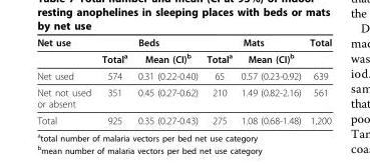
<table><thead><tr><td rowspan="2">Net use</td><td colspan="2">Beds</td><td colspan="2">Mats</td><td rowspan="2">Total</td></tr><tr><td>Total<sup>a</sup></td><td>Mean (CI)<sup>b</sup></td><td>Total<sup>a</sup></td><td>Mean (CI)<sup>b</sup></td></tr></thead><tbody><tr><td>Net used</td><td>574</td><td>0.31 (0.22-0.40)</td><td>65</td><td>0.57 (0.23-0.92)</td><td>639</td></tr><tr><td>Net not used or absent</td><td>351</td><td>0.45 (0.27-0.62)</td><td>210</td><td>1.49 (0.82-2.16)</td><td>561</td></tr><tr><td>Total</td><td>925</td><td>0.35 (0.27-0.43)</td><td>275</td><td>1.08 (0.68-1.48)</td><td>1,200</td></tr></tbody></table>